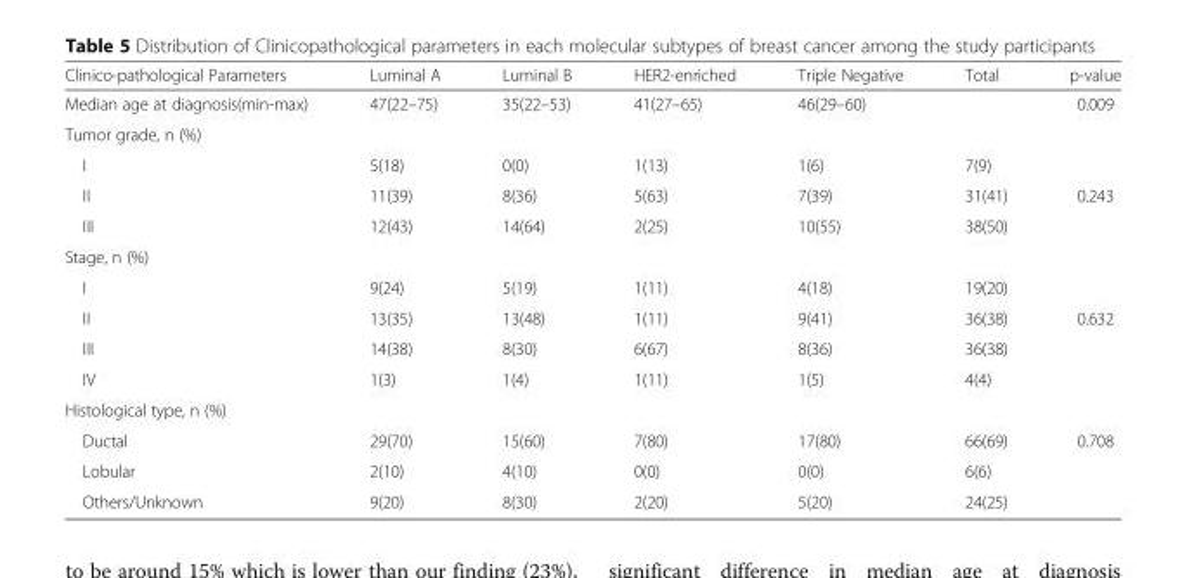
<table><thead><tr><td>Clinico-pathological Parameters</td><td>Luminal A</td><td>Luminal B</td><td>HER2-enriched</td><td>Triple Negative</td><td>Total</td><td>p-value</td></tr></thead><tbody><tr><td>Median age at diagnosis(min-max)</td><td>47(22–75)</td><td>35(22–53)</td><td>41(27–65)</td><td>46(29–60)</td><td></td><td>0.009</td></tr><tr><td colspan="7">Tumor grade, n (%)</td></tr><tr><td>I</td><td>5(18)</td><td>0(0)</td><td>1(13)</td><td>1(6)</td><td>7(9)</td><td></td></tr><tr><td>II</td><td>11(39)</td><td>8(36)</td><td>5(63)</td><td>7(39)</td><td>31(41)</td><td>0.243</td></tr><tr><td>III</td><td>12(43)</td><td>14(64)</td><td>2(25)</td><td>10(55)</td><td>38(50)</td><td></td></tr><tr><td colspan="7">Stage, n (%)</td></tr><tr><td>I</td><td>9(24)</td><td>5(19)</td><td>1(11)</td><td>4(18)</td><td>19(20)</td><td></td></tr><tr><td>II</td><td>13(35)</td><td>13(48)</td><td>1(11)</td><td>9(41)</td><td>36(38)</td><td>0.632</td></tr><tr><td>III</td><td>14(38)</td><td>8(30)</td><td>6(67)</td><td>8(36)</td><td>36(38)</td><td></td></tr><tr><td>IV</td><td>1(3)</td><td>1(4)</td><td>1(11)</td><td>1(5)</td><td>4(4)</td><td></td></tr><tr><td colspan="7">Histological type, n (%)</td></tr><tr><td>Ductal</td><td>29(70)</td><td>15(60)</td><td>7(80)</td><td>17(80)</td><td>66(69)</td><td rowspan="3">0.708</td></tr><tr><td>Lobular</td><td>2(10)</td><td>4(10)</td><td>0(0)</td><td>0(0)</td><td>6(6)</td></tr><tr><td>Others/Unknown</td><td>9(20)</td><td>8(30)</td><td>2(20)</td><td>5(20)</td><td>24(25)</td></tr></tbody></table>